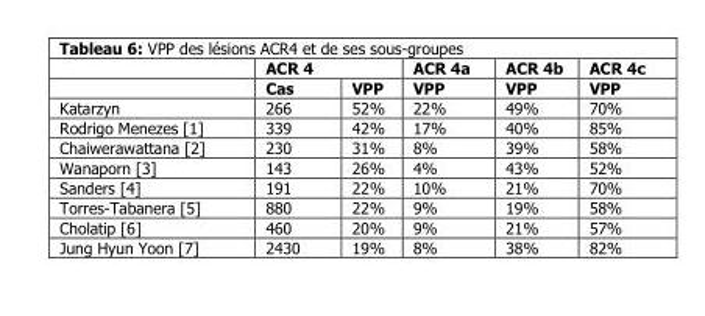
<table><thead><tr><td rowspan="2"></td><td colspan="2">ACR 4</td><td rowspan="2">ACR 4a VPP</td><td rowspan="2">ACR 4b VPP</td><td rowspan="2">ACR 4c VPP</td></tr><tr><td>Cas</td><td>VPP</td></tr></thead><tbody><tr><td>Katarzyn</td><td>266</td><td>52%</td><td>22%</td><td>49%</td><td>70%</td></tr><tr><td>Rodrigo Menezes [1]</td><td>339</td><td>42%</td><td>17%</td><td>40%</td><td>85%</td></tr><tr><td>Chaiwerawattana [2]</td><td>230</td><td>31%</td><td>8%</td><td>39%</td><td>58%</td></tr><tr><td>Wanaporn [3]</td><td>143</td><td>26%</td><td>4%</td><td>43%</td><td>52%</td></tr><tr><td>Sanders [4]</td><td>191</td><td>22%</td><td>10%</td><td>21%</td><td>70%</td></tr><tr><td>Torres-Tabanera [5]</td><td>880</td><td>22%</td><td>9%</td><td>19%</td><td>58%</td></tr><tr><td>Cholatip [6]</td><td>460</td><td>20%</td><td>9%</td><td>21%</td><td>57%</td></tr><tr><td>Jung Hyun Yoon [7]</td><td>2430</td><td>19%</td><td>8%</td><td>38%</td><td>82%</td></tr></tbody></table>